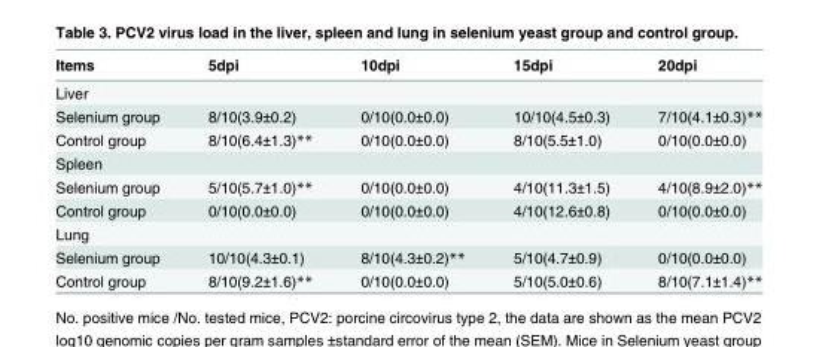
<table><thead><tr><td>Items</td><td>5dpi</td><td>10dpi</td><td>15dpi</td><td>20dpi</td></tr></thead><tbody><tr><td colspan="5">Liver</td></tr><tr><td>Selenium group</td><td>8/10(3.9±0.2)</td><td>0/10(0.0±0.0)</td><td>10/10(4.5±0.3)</td><td>7/10(4.1±0.3)**</td></tr><tr><td>Control group</td><td>8/10(6.4±1.3)**</td><td>0/10(0.0±0.0)</td><td>8/10(5.5±1.0)</td><td>0/10(0.0±0.0)</td></tr><tr><td colspan="5">Spleen</td></tr><tr><td>Selenium group</td><td>5/10(5.7±1.0)**</td><td>0/10(0.0±0.0)</td><td>4/10(11.3±1.5)</td><td>4/10(8.9±2.0)**</td></tr><tr><td>Control group</td><td>0/10(0.0±0.0)</td><td>0/10(0.0±0.0)</td><td>4/10(12.6±0.8)</td><td>0/10(0.0±0.0)</td></tr><tr><td colspan="5">Lung</td></tr><tr><td>Selenium group</td><td>10/10(4.3±0.1)</td><td>8/10(4.3±0.2)**</td><td>5/10(4.7±0.9)</td><td>0/10(0.0±0.0)</td></tr><tr><td>Control group</td><td>8/10(9.2±1.6)**</td><td>0/10(0.0±0.0)</td><td>5/10(5.0±0.6)</td><td>8/10(7.1±1.4)**</td></tr></tbody></table>